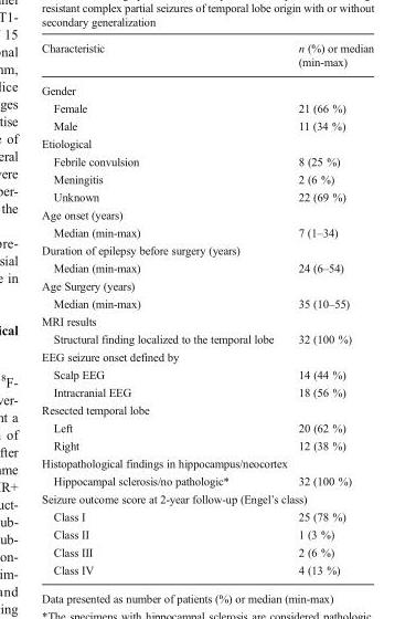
<table><thead><tr><td>Characteristic</td><td>n (%) or median (min-max)</td></tr></thead><tbody><tr><td colspan="2">Gender</td></tr><tr><td>Female</td><td>21 (66 %)</td></tr><tr><td>Male</td><td>11 (34 %)</td></tr><tr><td colspan="2">Etiological</td></tr><tr><td>Febrile convulsion</td><td>8 (25 %)</td></tr><tr><td>Meningitis</td><td>2 (6 %)</td></tr><tr><td>Unknown</td><td>22 (69 %)</td></tr><tr><td colspan="2">Age onset (years)</td></tr><tr><td>Median (min-max)</td><td>7 (1–34)</td></tr><tr><td colspan="2">Duration of epilepsy before surgery (years)</td></tr><tr><td>Median (min-max)</td><td>24 (6–54)</td></tr><tr><td colspan="2">Age Surgery (years)</td></tr><tr><td>Median (min-max)</td><td>35 (10–55)</td></tr><tr><td colspan="2">MRI results</td></tr><tr><td>Structural finding localized to the temporal lobe</td><td>32 (100 %)</td></tr><tr><td colspan="2">EEG seizure onset defined by</td></tr><tr><td>Scalp EEG</td><td>14 (44 %)</td></tr><tr><td>Intracranial EEG</td><td>18 (56 %)</td></tr><tr><td colspan="2">Resected temporal lobe</td></tr><tr><td>Left</td><td>20 (62 %)</td></tr><tr><td>Right</td><td>12 (38 %)</td></tr><tr><td colspan="2">Histopathological findings in hippocampus/neocortex</td></tr><tr><td>Hippocampal sclerosis/no pathologic*</td><td>32 (100 %)</td></tr><tr><td colspan="2">Seizure outcome score at 2-year follow-up (Engel’s class)</td></tr><tr><td>Class I</td><td>25 (78 %)</td></tr><tr><td>Class II</td><td>1 (3 %)</td></tr><tr><td>Class III</td><td>2 (6 %)</td></tr><tr><td>Class IV</td><td>4 (13 %)</td></tr></tbody></table>